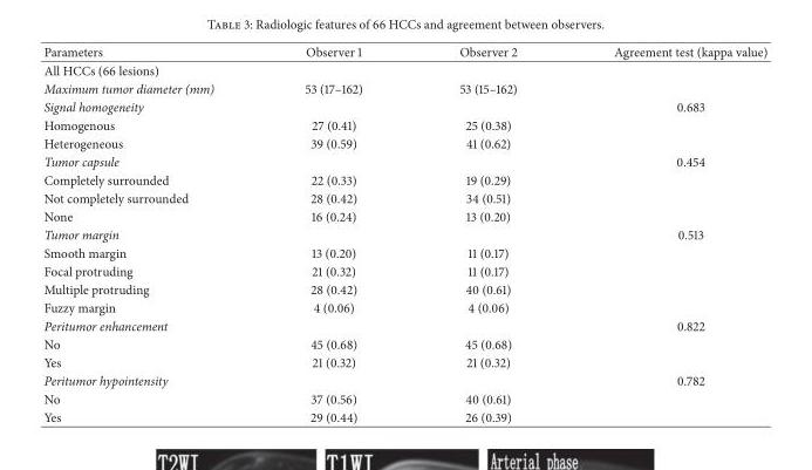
<table><thead><tr><td>Parameters</td><td>Observer 1</td><td>Observer 2</td><td>Agreement test (kappa value)</td></tr></thead><tbody><tr><td colspan="4">All HCCs (66 lesions)</td></tr><tr><td>Maximum tumor diameter (mm)</td><td>53 (17–162)</td><td>53 (15–162)</td><td></td></tr><tr><td>Signal homogeneity</td><td></td><td></td><td>0.683</td></tr><tr><td>Homogenous</td><td>27 (0.41)</td><td>25 (0.38)</td><td></td></tr><tr><td>Heterogeneous</td><td>39 (0.59)</td><td>41 (0.62)</td><td></td></tr><tr><td>Tumor capsule</td><td></td><td></td><td>0.454</td></tr><tr><td>Completely surrounded</td><td>22 (0.33)</td><td>19 (0.29)</td><td></td></tr><tr><td>Not completely surrounded</td><td>28 (0.42)</td><td>34 (0.51)</td><td></td></tr><tr><td>None</td><td>16 (0.24)</td><td>13 (0.20)</td><td></td></tr><tr><td>Tumor margin</td><td></td><td></td><td>0.513</td></tr><tr><td>Smooth margin</td><td>13 (0.20)</td><td>11 (0.17)</td><td></td></tr><tr><td>Focal protruding</td><td>21 (0.32)</td><td>11 (0.17)</td><td></td></tr><tr><td>Multiple protruding</td><td>28 (0.42)</td><td>40 (0.61)</td><td></td></tr><tr><td>Fuzzy margin</td><td>4 (0.06)</td><td>4 (0.06)</td><td></td></tr><tr><td>Peritumor enhancement</td><td></td><td></td><td>0.822</td></tr><tr><td>No</td><td>45 (0.68)</td><td>45 (0.68)</td><td></td></tr><tr><td>Yes</td><td>21 (0.32)</td><td>21 (0.32)</td><td></td></tr><tr><td>Peritumor hypointensity</td><td></td><td></td><td>0.782</td></tr><tr><td>No</td><td>37 (0.56)</td><td>40 (0.61)</td><td></td></tr><tr><td>Yes</td><td>29 (0.44)</td><td>26 (0.39)</td><td></td></tr></tbody></table>